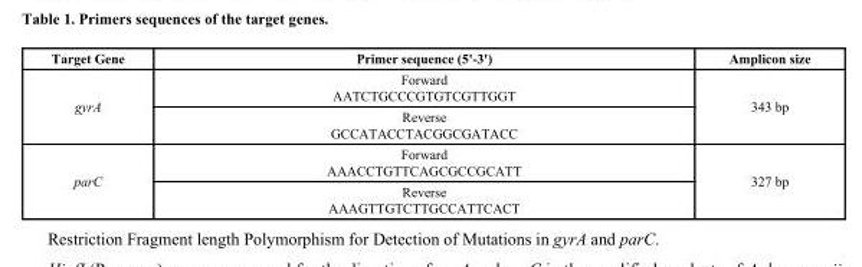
<table><thead><tr><td>Target Gene</td><td>Primer sequence (5&#x27;-3&#x27;)</td><td>Amplicon size</td></tr></thead><tbody><tr><td rowspan="2">gyrA</td><td>Forward AATCTGCCCGTGTCGTTGGT</td><td rowspan="2">343 bp</td></tr><tr><td>Reverse GCCATACCTACGGCGATACC</td></tr><tr><td rowspan="2">parC</td><td>Forward AAACCTGTTCAGCGCCGCATT</td><td rowspan="2">327 bp</td></tr><tr><td>Reverse AAAGTTGTCTTGCCATTCACT</td></tr></tbody></table>